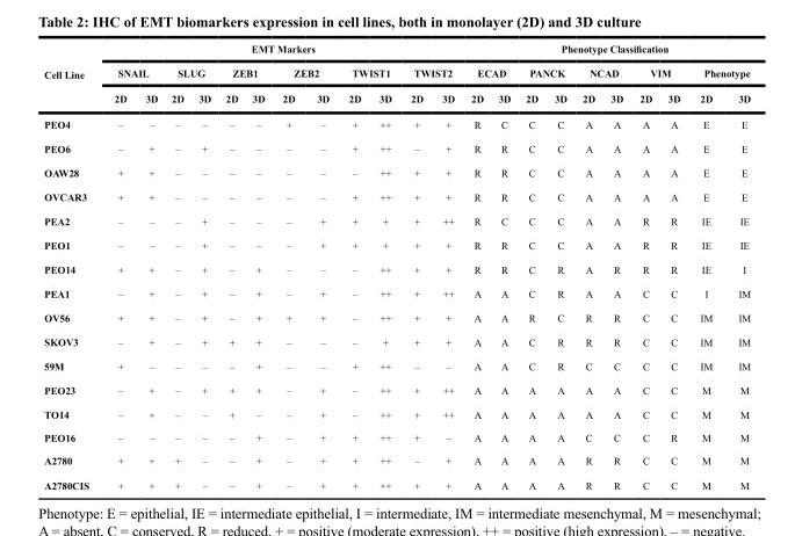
<table><thead><tr><td rowspan="3">Cell Line</td><td colspan="12">EMT Markers</td><td colspan="10">Phenotype Classification</td></tr><tr><td colspan="2">SNAIL</td><td colspan="2">SLUG</td><td colspan="2">ZEB1</td><td colspan="2">ZEB2</td><td colspan="2">TWIST1</td><td colspan="2">TWIST2</td><td colspan="2">ECAD</td><td colspan="2">PANCK</td><td colspan="2">NCAD</td><td colspan="2">VIM</td><td colspan="2">Phenotype</td></tr><tr><td>2D</td><td>3D</td><td>2D</td><td>3D</td><td>2D</td><td>3D</td><td>2D</td><td>3D</td><td>2D</td><td>3D</td><td>2D</td><td>3D</td><td>2D</td><td>3D</td><td>2D</td><td>3D</td><td>2D</td><td>3D</td><td>2D</td><td>3D</td><td>2D</td><td>3D</td></tr></thead><tbody><tr><td>PEO4</td><td>–</td><td>–</td><td>–</td><td>–</td><td>–</td><td>–</td><td>+</td><td>–</td><td>+</td><td>++</td><td>+</td><td>+</td><td>R</td><td>C</td><td>C</td><td>C</td><td>A</td><td>A</td><td>A</td><td>A</td><td>E</td><td>E</td></tr><tr><td>PEO6</td><td>–</td><td>+</td><td>–</td><td>+</td><td>–</td><td>–</td><td>–</td><td>–</td><td>+</td><td>++</td><td>–</td><td>+</td><td>R</td><td>R</td><td>C</td><td>C</td><td>A</td><td>A</td><td>A</td><td>A</td><td>E</td><td>E</td></tr><tr><td>OAW28</td><td>+</td><td>+</td><td>–</td><td>–</td><td>–</td><td>–</td><td>–</td><td>–</td><td>–</td><td>++</td><td>+</td><td>+</td><td>R</td><td>R</td><td>C</td><td>C</td><td>A</td><td>A</td><td>A</td><td>A</td><td>E</td><td>E</td></tr><tr><td>OVCAR3</td><td>+</td><td>+</td><td>–</td><td>–</td><td>–</td><td>–</td><td>–</td><td>–</td><td>+</td><td>++</td><td>+</td><td>+</td><td>R</td><td>R</td><td>C</td><td>C</td><td>A</td><td>A</td><td>A</td><td>A</td><td>E</td><td>E</td></tr><tr><td>PEA2</td><td>–</td><td>–</td><td>–</td><td>+</td><td>–</td><td>–</td><td>–</td><td>+</td><td>+</td><td>+</td><td>+</td><td>++</td><td>R</td><td>C</td><td>C</td><td>C</td><td>A</td><td>A</td><td>R</td><td>R</td><td>IE</td><td>IE</td></tr><tr><td>PEO1</td><td>–</td><td>–</td><td>–</td><td>+</td><td>–</td><td>–</td><td>–</td><td>+</td><td>+</td><td>+</td><td>+</td><td>+</td><td>R</td><td>R</td><td>C</td><td>C</td><td>A</td><td>A</td><td>R</td><td>R</td><td>IE</td><td>IE</td></tr><tr><td>PEO14</td><td>+</td><td>+</td><td>–</td><td>+</td><td>–</td><td>+</td><td>–</td><td>–</td><td>–</td><td>++</td><td>+</td><td>+</td><td>R</td><td>R</td><td>C</td><td>R</td><td>A</td><td>R</td><td>R</td><td>R</td><td>IE</td><td>I</td></tr><tr><td>PEA1</td><td>–</td><td>+</td><td>–</td><td>+</td><td>–</td><td>+</td><td>–</td><td>+</td><td>–</td><td>++</td><td>+</td><td>++</td><td>A</td><td>A</td><td>C</td><td>R</td><td>A</td><td>A</td><td>C</td><td>C</td><td>I</td><td>IM</td></tr><tr><td>OV56</td><td>+</td><td>+</td><td>–</td><td>+</td><td>–</td><td>+</td><td>+</td><td>+</td><td>–</td><td>++</td><td>+</td><td>+</td><td>A</td><td>A</td><td>R</td><td>C</td><td>R</td><td>R</td><td>C</td><td>C</td><td>IM</td><td>IM</td></tr><tr><td>SKOV3</td><td>–</td><td>+</td><td>–</td><td>+</td><td>+</td><td>+</td><td>–</td><td>–</td><td>–</td><td>+</td><td>+</td><td>+</td><td>A</td><td>A</td><td>C</td><td>R</td><td>R</td><td>R</td><td>C</td><td>C</td><td>IM</td><td>IM</td></tr><tr><td>59M</td><td>+</td><td>–</td><td>–</td><td>–</td><td>–</td><td>+</td><td>–</td><td>–</td><td>+</td><td>++</td><td>–</td><td>–</td><td>A</td><td>A</td><td>C</td><td>R</td><td>C</td><td>C</td><td>C</td><td>C</td><td>IM</td><td>IM</td></tr><tr><td>PEO23</td><td>–</td><td>+</td><td>–</td><td>+</td><td>+</td><td>+</td><td>–</td><td>+</td><td>–</td><td>++</td><td>+</td><td>++</td><td>A</td><td>A</td><td>A</td><td>A</td><td>A</td><td>A</td><td>C</td><td>C</td><td>M</td><td>M</td></tr><tr><td>TO14</td><td>–</td><td>+</td><td>–</td><td>–</td><td>+</td><td>–</td><td>–</td><td>+</td><td>–</td><td>++</td><td>+</td><td>++</td><td>A</td><td>A</td><td>A</td><td>A</td><td>A</td><td>A</td><td>C</td><td>C</td><td>M</td><td>M</td></tr><tr><td>PEO16</td><td>–</td><td>–</td><td>–</td><td>–</td><td>–</td><td>+</td><td>–</td><td>+</td><td>+</td><td>++</td><td>+</td><td>–</td><td>A</td><td>A</td><td>A</td><td>A</td><td>C</td><td>C</td><td>C</td><td>R</td><td>M</td><td>M</td></tr><tr><td>A2780</td><td>+</td><td>+</td><td>+</td><td>–</td><td>–</td><td>+</td><td>–</td><td>+</td><td>+</td><td>++</td><td>–</td><td>+</td><td>A</td><td>A</td><td>A</td><td>A</td><td>R</td><td>R</td><td>C</td><td>C</td><td>M</td><td>M</td></tr><tr><td>A2780CIS</td><td>+</td><td>+</td><td>+</td><td>–</td><td>–</td><td>+</td><td>–</td><td>+</td><td>+</td><td>++</td><td>+</td><td>+</td><td>A</td><td>A</td><td>A</td><td>A</td><td>R</td><td>R</td><td>C</td><td>C</td><td>M</td><td>M</td></tr></tbody></table>